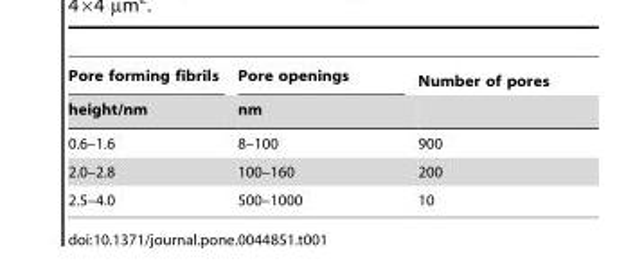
<table><thead><tr><td rowspan="2">Pore forming fibrils height/nm</td><td rowspan="2">Pore openings nm</td><td rowspan="2">Number of pores</td></tr><tr></tr></thead><tbody><tr><td>0.6–1.6</td><td>8–100</td><td>900</td></tr><tr><td>2.0–2.8</td><td>100–160</td><td>200</td></tr><tr><td>2.5–4.0</td><td>500–1000</td><td>10</td></tr></tbody></table>